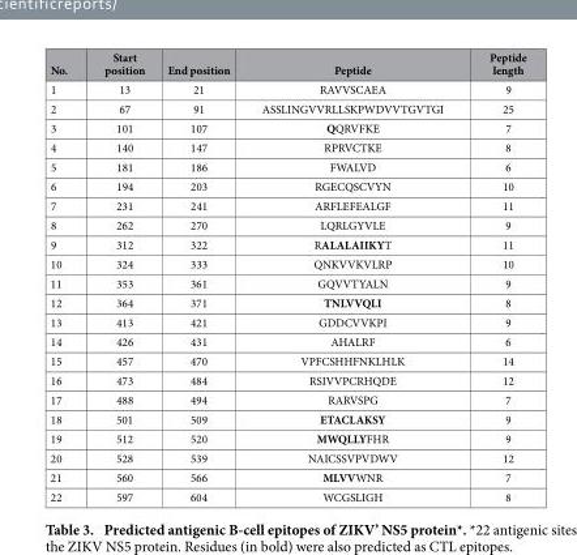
<table><thead><tr><td>No.</td><td>Start position</td><td>End position</td><td>Peptide</td><td>Peptide length</td></tr></thead><tbody><tr><td>1</td><td>13</td><td>21</td><td>RAVVSCAEA</td><td>9</td></tr><tr><td>2</td><td>67</td><td>91</td><td>ASSLINGVVRLLSKPWDVVTGVTGI</td><td>25</td></tr><tr><td>3</td><td>101</td><td>107</td><td>QQRVFKE</td><td>7</td></tr><tr><td>4</td><td>140</td><td>147</td><td>RPRVCTKE</td><td>8</td></tr><tr><td>5</td><td>181</td><td>186</td><td>FWALVD</td><td>6</td></tr><tr><td>6</td><td>194</td><td>203</td><td>RGECQSCVYN</td><td>10</td></tr><tr><td>7</td><td>231</td><td>241</td><td>ARFLEFEALGF</td><td>11</td></tr><tr><td>8</td><td>262</td><td>270</td><td>LQRLGYVLE</td><td>9</td></tr><tr><td>9</td><td>312</td><td>322</td><td>RALALAIIKYT</td><td>11</td></tr><tr><td>10</td><td>324</td><td>333</td><td>QNKVVKVLRP</td><td>10</td></tr><tr><td>11</td><td>353</td><td>361</td><td>GQVVTYALN</td><td>9</td></tr><tr><td>12</td><td>364</td><td>371</td><td>TNLVVQLI</td><td>8</td></tr><tr><td>13</td><td>413</td><td>421</td><td>GDDCVVKPI</td><td>9</td></tr><tr><td>14</td><td>426</td><td>431</td><td>AHALRF</td><td>6</td></tr><tr><td>15</td><td>457</td><td>470</td><td>VPFCSHHFNKLHLK</td><td>14</td></tr><tr><td>16</td><td>473</td><td>484</td><td>RSIVVPCRHQDE</td><td>12</td></tr><tr><td>17</td><td>488</td><td>494</td><td>RARVSPG</td><td>7</td></tr><tr><td>18</td><td>501</td><td>509</td><td>ETACLAKSY</td><td>9</td></tr><tr><td>19</td><td>512</td><td>520</td><td>MWQLLYFHR</td><td>9</td></tr><tr><td>20</td><td>528</td><td>539</td><td>NAICSSVPVDWV</td><td>12</td></tr><tr><td>21</td><td>560</td><td>566</td><td>MLVVWNR</td><td>7</td></tr><tr><td>22</td><td>597</td><td>604</td><td>WCGSLIGH</td><td>8</td></tr></tbody></table>